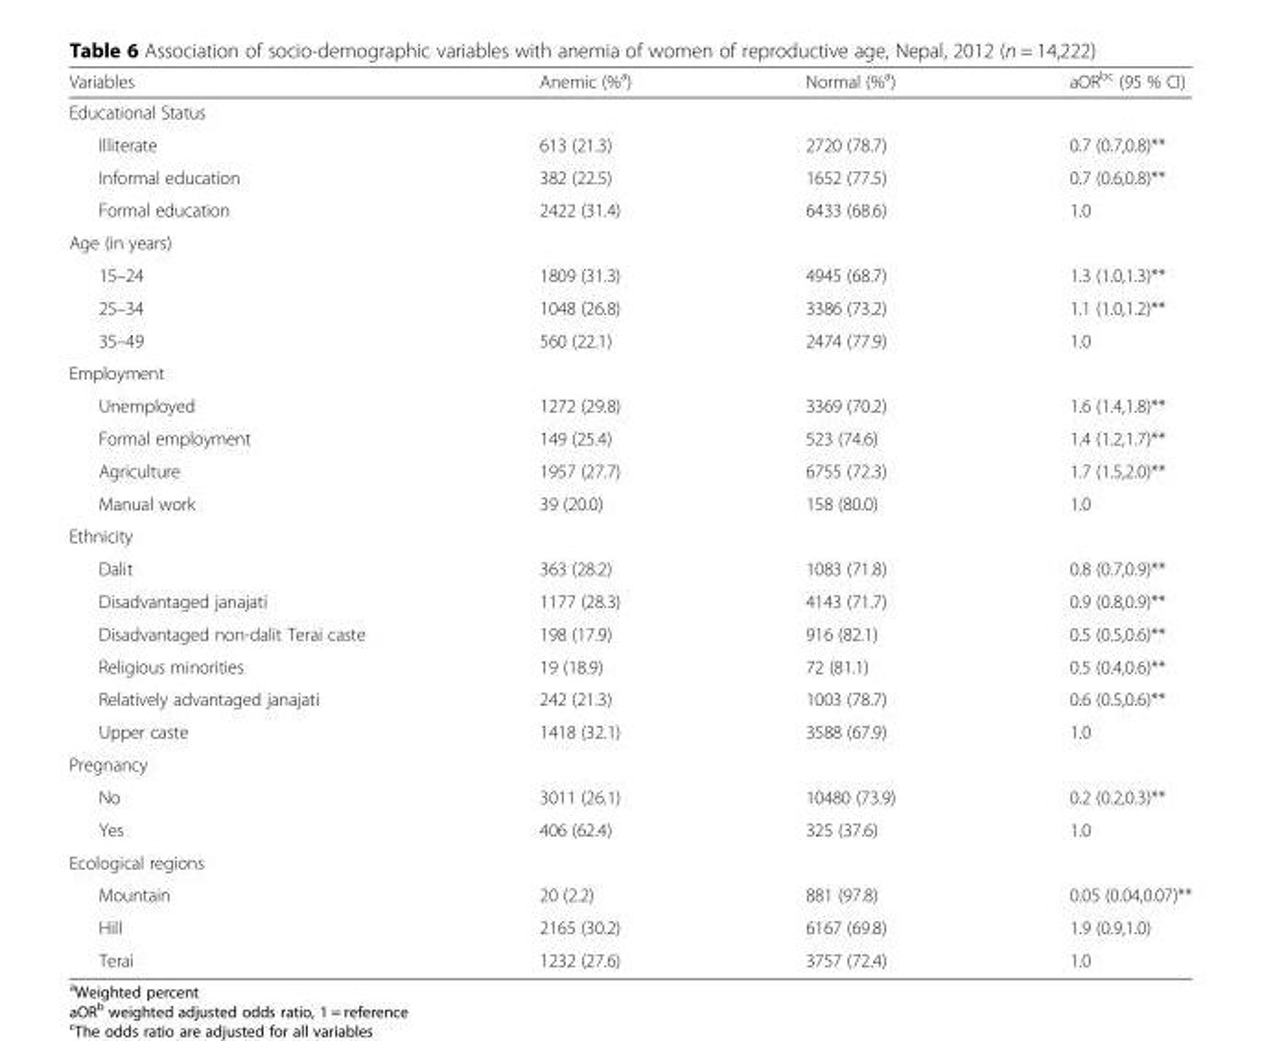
<table><thead><tr><td>Variables</td><td>Anemic (%<sup>a</sup>)</td><td>Normal (%<sup>a</sup>)</td><td>aOR<sup>bc</sup> (95 % CI)</td></tr></thead><tbody><tr><td colspan="4">Educational Status</td></tr><tr><td>Illiterate</td><td>613 (21.3)</td><td>2720 (78.7)</td><td>0.7 (0.7,0.8)**</td></tr><tr><td>Informal education</td><td>382 (22.5)</td><td>1652 (77.5)</td><td>0.7 (0.6,0.8)**</td></tr><tr><td>Formal education</td><td>2422 (31.4)</td><td>6433 (68.6)</td><td>1.0</td></tr><tr><td colspan="4">Age (in years)</td></tr><tr><td>15–24</td><td>1809 (31.3)</td><td>4945 (68.7)</td><td>1.3 (1.0,1.3)**</td></tr><tr><td>25–34</td><td>1048 (26.8)</td><td>3386 (73.2)</td><td>1.1 (1.0,1.2)**</td></tr><tr><td>35–49</td><td>560 (22.1)</td><td>2474 (77.9)</td><td>1.0</td></tr><tr><td colspan="4">Employment</td></tr><tr><td>Unemployed</td><td>1272 (29.8)</td><td>3369 (70.2)</td><td>1.6 (1.4,1.8)**</td></tr><tr><td>Formal employment</td><td>149 (25.4)</td><td>523 (74.6)</td><td>1.4 (1.2,1.7)**</td></tr><tr><td>Agriculture</td><td>1957 (27.7)</td><td>6755 (72.3)</td><td>1.7 (1.5,2.0)**</td></tr><tr><td>Manual work</td><td>39 (20.0)</td><td>158 (80.0)</td><td>1.0</td></tr><tr><td colspan="4">Ethnicity</td></tr><tr><td>Dalit</td><td>363 (28.2)</td><td>1083 (71.8)</td><td>0.8 (0.7,0.9)**</td></tr><tr><td>Disadvantaged janajati</td><td>1177 (28.3)</td><td>4143 (71.7)</td><td>0.9 (0.8,0.9)**</td></tr><tr><td>Disadvantaged non-dalit Terai caste</td><td>198 (17.9)</td><td>916 (82.1)</td><td>0.5 (0.5,0.6)**</td></tr><tr><td>Religious minorities</td><td>19 (18.9)</td><td>72 (81.1)</td><td>0.5 (0.4,0.6)**</td></tr><tr><td>Relatively advantaged janajati</td><td>242 (21.3)</td><td>1003 (78.7)</td><td>0.6 (0.5,0.6)**</td></tr><tr><td>Upper caste</td><td>1418 (32.1)</td><td>3588 (67.9)</td><td>1.0</td></tr><tr><td colspan="4">Pregnancy</td></tr><tr><td>No</td><td>3011 (26.1)</td><td>10480 (73.9)</td><td>0.2 (0.2,0.3)**</td></tr><tr><td>Yes</td><td>406 (62.4)</td><td>325 (37.6)</td><td>1.0</td></tr><tr><td colspan="4">Ecological regions</td></tr><tr><td>Mountain</td><td>20 (2.2)</td><td>881 (97.8)</td><td>0.05 (0.04,0.07)**</td></tr><tr><td>Hill</td><td>2165 (30.2)</td><td>6167 (69.8)</td><td>1.9 (0.9,1.0)</td></tr><tr><td>Terai</td><td>1232 (27.6)</td><td>3757 (72.4)</td><td>1.0</td></tr></tbody></table>